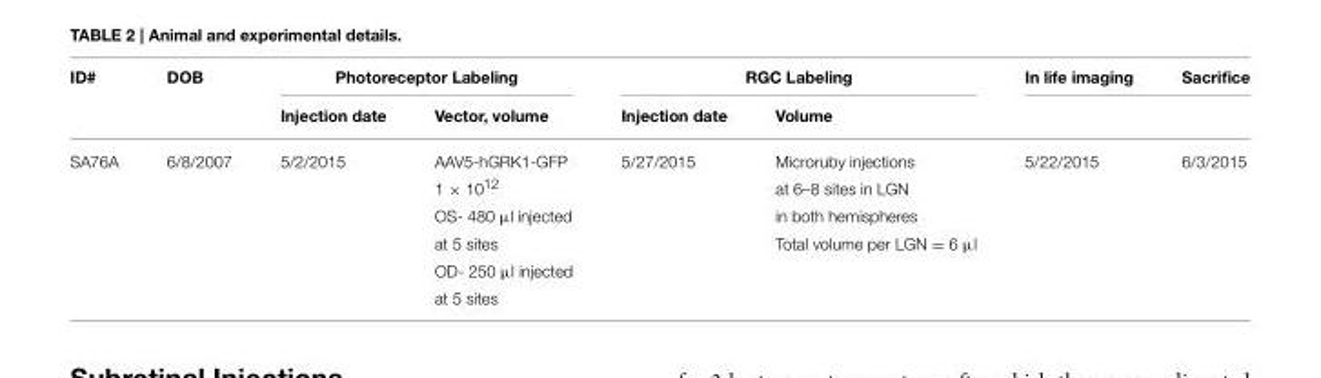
<table><thead><tr><td rowspan="2">ID#</td><td rowspan="2">DOB</td><td colspan="2">Photoreceptor Labeling</td><td colspan="2">RGC Labeling</td><td rowspan="2">In life imaging</td><td rowspan="2">Sacrifice</td></tr><tr><td>Injection date</td><td>Vector, volume</td><td>Injection date</td><td>Volume</td></tr></thead><tbody><tr><td rowspan="6">SA76A</td><td>6/8/2007</td><td>5/2/2015</td><td>AAV5-hGRK1-GFP</td><td>5/27/2015</td><td>Microruby injections</td><td>5/22/2015</td><td>6/3/2015</td></tr><tr><td></td><td></td><td>1 × 10<sup>12</sup></td><td></td><td>at 6–8 sites in LGN</td><td></td><td></td></tr><tr><td></td><td></td><td>OS- 480 µl injected</td><td></td><td>in both hemispheres</td><td></td><td></td></tr><tr><td></td><td></td><td>at 5 sites</td><td></td><td>Total volume per LGN = 6 µl</td><td></td><td></td></tr><tr><td></td><td></td><td>OD- 250 µl injected</td><td></td><td></td><td></td><td></td></tr><tr><td></td><td></td><td>at 5 sites</td><td></td><td></td><td></td><td></td></tr></tbody></table>